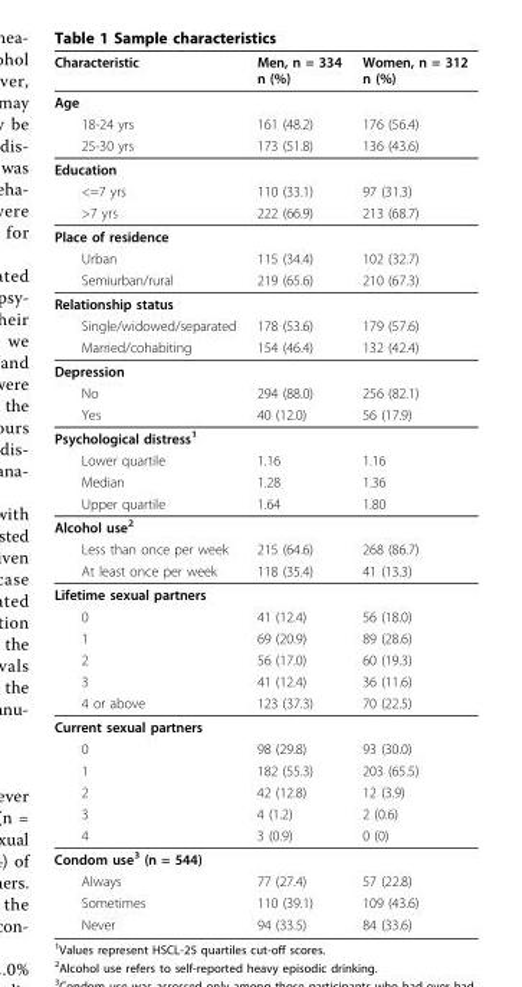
<table><thead><tr><td>Characteristic</td><td>Men, n = 334 n (%)</td><td>Women, n = 312 n (%)</td></tr></thead><tbody><tr><td colspan="3">Age</td></tr><tr><td>18-24 yrs</td><td>161 (48.2)</td><td>176 (56.4)</td></tr><tr><td>25-30 yrs</td><td>173 (51.8)</td><td>136 (43.6)</td></tr><tr><td colspan="3">Education</td></tr><tr><td>&lt;=7 yrs</td><td>110 (33.1)</td><td>97 (31.3)</td></tr><tr><td>&gt;7 yrs</td><td>222 (66.9)</td><td>213 (68.7)</td></tr><tr><td colspan="3">Place of residence</td></tr><tr><td>Urban</td><td>115 (34.4)</td><td>102 (32.7)</td></tr><tr><td>Semiurban/rural</td><td>219 (65.6)</td><td>210 (67.3)</td></tr><tr><td colspan="3">Relationship status</td></tr><tr><td>Single/widowed/separated</td><td>178 (53.6)</td><td>179 (57.6)</td></tr><tr><td>Married/cohabiting</td><td>154 (46.4)</td><td>132 (42.4)</td></tr><tr><td colspan="3">Depression</td></tr><tr><td>No</td><td>294 (88.0)</td><td>256 (82.1)</td></tr><tr><td>Yes</td><td>40 (12.0)</td><td>56 (17.9)</td></tr><tr><td colspan="3">Psychological distress<sup>1</sup></td></tr><tr><td>Lower quartile</td><td>1.16</td><td>1.16</td></tr><tr><td>Median</td><td>1.28</td><td>1.36</td></tr><tr><td>Upper quartile</td><td>1.64</td><td>1.80</td></tr><tr><td colspan="3">Alcohol use<sup>2</sup></td></tr><tr><td>Less than once per week</td><td>215 (64.6)</td><td>268 (86.7)</td></tr><tr><td>At least once per week</td><td>118 (35.4)</td><td>41 (13.3)</td></tr><tr><td colspan="3">Lifetime sexual partners</td></tr><tr><td>0</td><td>41 (12.4)</td><td>56 (18.0)</td></tr><tr><td>1</td><td>69 (20.9)</td><td>89 (28.6)</td></tr><tr><td>2</td><td>56 (17.0)</td><td>60 (19.3)</td></tr><tr><td>3</td><td>41 (12.4)</td><td>36 (11.6)</td></tr><tr><td>4 or above</td><td>123 (37.3)</td><td>70 (22.5)</td></tr><tr><td colspan="3">Current sexual partners</td></tr><tr><td>0</td><td>98 (29.8)</td><td>93 (30.0)</td></tr><tr><td>1</td><td>182 (55.3)</td><td>203 (65.5)</td></tr><tr><td>2</td><td>42 (12.8)</td><td>12 (3.9)</td></tr><tr><td>3</td><td>4 (1.2)</td><td>2 (0.6)</td></tr><tr><td>4</td><td>3 (0.9)</td><td>0 (0)</td></tr><tr><td colspan="3">Condom use<sup>3</sup> (n = 544)</td></tr><tr><td>Always</td><td>77 (27.4)</td><td>57 (22.8)</td></tr><tr><td>Sometimes</td><td>110 (39.1)</td><td>109 (43.6)</td></tr><tr><td>Never</td><td>94 (33.5)</td><td>84 (33.6)</td></tr></tbody></table>